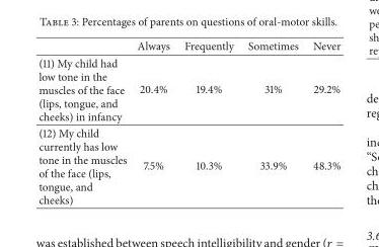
<table><thead><tr><td></td><td>Always</td><td>Frequently</td><td>Sometimes</td><td>Never</td></tr></thead><tbody><tr><td>(11) My child had low tone in the muscles of the face (lips, tongue, and cheeks) in infancy</td><td>20.4%</td><td>19.4%</td><td>31%</td><td>29.2%</td></tr><tr><td>(12) My child currently has low tone in the muscles of the face (lips, tongue, and cheeks)</td><td>7.5%</td><td>10.3%</td><td>33.9%</td><td>48.3%</td></tr></tbody></table>